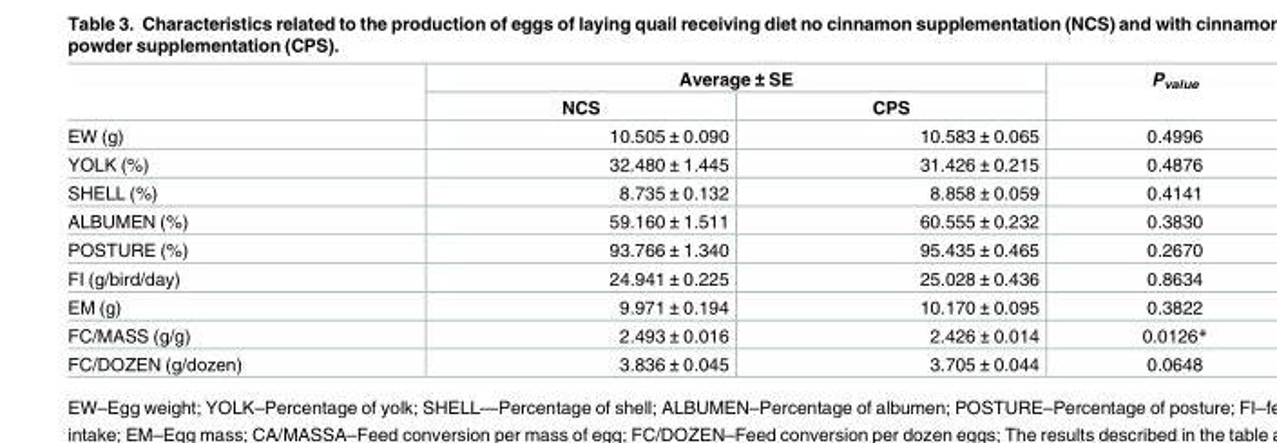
<table><thead><tr><td rowspan="2"></td><td colspan="2">Average ± SE</td><td rowspan="2">P<sub>value</sub></td></tr><tr><td>NCS</td><td>CPS</td></tr></thead><tbody><tr><td>EW (g)</td><td>10.505 ± 0.090</td><td>10.583 ± 0.065</td><td>0.4996</td></tr><tr><td>YOLK (%)</td><td>32.480 ± 1.445</td><td>31.426 ± 0.215</td><td>0.4876</td></tr><tr><td>SHELL (%)</td><td>8.735 ± 0.132</td><td>8.858 ± 0.059</td><td>0.4141</td></tr><tr><td>ALBUMEN (%)</td><td>59.160 ± 1.511</td><td>60.555 ± 0.232</td><td>0.3830</td></tr><tr><td>POSTURE (%)</td><td>93.766 ± 1.340</td><td>95.435 ± 0.465</td><td>0.2670</td></tr><tr><td>FI (g/bird/day)</td><td>24.941 ± 0.225</td><td>25.028 ± 0.436</td><td>0.8634</td></tr><tr><td>EM (g)</td><td>9.971 ± 0.194</td><td>10.170 ± 0.095</td><td>0.3822</td></tr><tr><td>FC/MASS (g/g)</td><td>2.493 ± 0.016</td><td>2.426 ± 0.014</td><td>0.0126*</td></tr><tr><td>FC/DOZEN (g/dozen)</td><td>3.836 ± 0.045</td><td>3.705 ± 0.044</td><td>0.0648</td></tr></tbody></table>